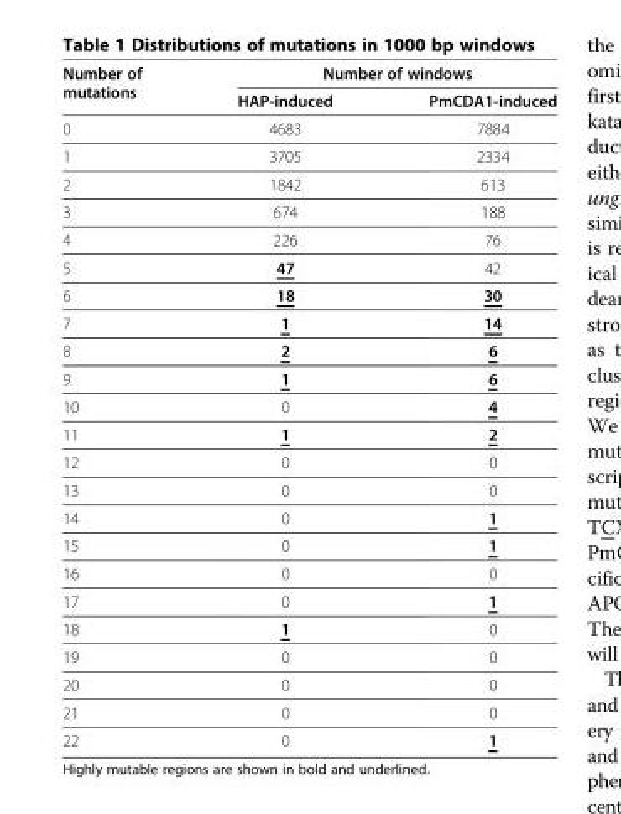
<table><thead><tr><td rowspan="2">Number of mutations</td><td colspan="2">Number of windows</td></tr><tr><td>HAP-induced</td><td>PmCDA1-induced</td></tr></thead><tbody><tr><td>0</td><td>4683</td><td>7884</td></tr><tr><td>1</td><td>3705</td><td>2334</td></tr><tr><td>2</td><td>1842</td><td>613</td></tr><tr><td>3</td><td>674</td><td>188</td></tr><tr><td>4</td><td>226</td><td>76</td></tr><tr><td>5</td><td>47</td><td>42</td></tr><tr><td>6</td><td>18</td><td>30</td></tr><tr><td>7</td><td>1</td><td>14</td></tr><tr><td>8</td><td>2</td><td>6</td></tr><tr><td>9</td><td>1</td><td>6</td></tr><tr><td>10</td><td>0</td><td>4</td></tr><tr><td>11</td><td>1</td><td>2</td></tr><tr><td>12</td><td>0</td><td>0</td></tr><tr><td>13</td><td>0</td><td>0</td></tr><tr><td>14</td><td>0</td><td>1</td></tr><tr><td>15</td><td>0</td><td>1</td></tr><tr><td>16</td><td>0</td><td>0</td></tr><tr><td>17</td><td>0</td><td>1</td></tr><tr><td>18</td><td>1</td><td>0</td></tr><tr><td>19</td><td>0</td><td>0</td></tr><tr><td>20</td><td>0</td><td>0</td></tr><tr><td rowspan="2">21 22</td><td>0</td><td>0</td></tr><tr><td>0</td><td>1</td></tr></tbody></table>